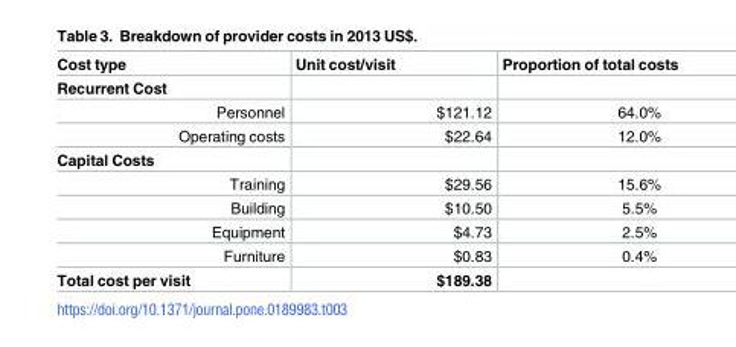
<table><thead><tr><td>Cost type</td><td>Unit cost/visit</td><td>Proportion of total costs</td></tr></thead><tbody><tr><td colspan="3">Recurrent Cost</td></tr><tr><td>Personnel</td><td>$121.12</td><td>64.0%</td></tr><tr><td>Operating costs</td><td>$22.64</td><td>12.0%</td></tr><tr><td colspan="3">Capital Costs</td></tr><tr><td>Training</td><td>$29.56</td><td>15.6%</td></tr><tr><td>Building</td><td>$10.50</td><td>5.5%</td></tr><tr><td>Equipment</td><td>$4.73</td><td>2.5%</td></tr><tr><td>Furniture</td><td>$0.83</td><td>0.4%</td></tr><tr><td>Total cost per visit</td><td>$189.38</td><td></td></tr></tbody></table>